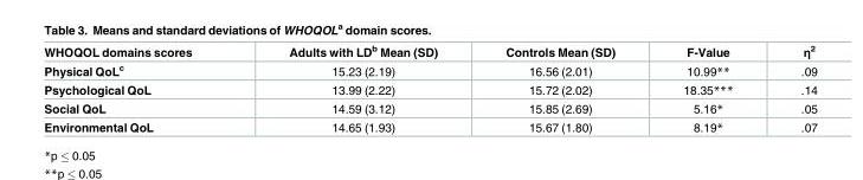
<table><thead><tr><td>WHOQOL domains scores</td><td>Adults with LD<sup>b</sup> Mean (SD)</td><td>Controls Mean (SD)</td><td>F-Value</td><td>η<sup>2</sup></td></tr></thead><tbody><tr><td>Physical QoL<sup>c</sup></td><td>15.23 (2.19)</td><td>16.56 (2.01)</td><td>10.99**</td><td>.09</td></tr><tr><td>Psychological QoL</td><td>13.99 (2.22)</td><td>15.72 (2.02)</td><td>18.35***</td><td>.14</td></tr><tr><td>Social QoL</td><td>14.59 (3.12)</td><td>15.85 (2.69)</td><td>5.16*</td><td>.05</td></tr><tr><td>Environmental QoL</td><td>14.65 (1.93)</td><td>15.67 (1.80)</td><td>8.19*</td><td>.07</td></tr></tbody></table>